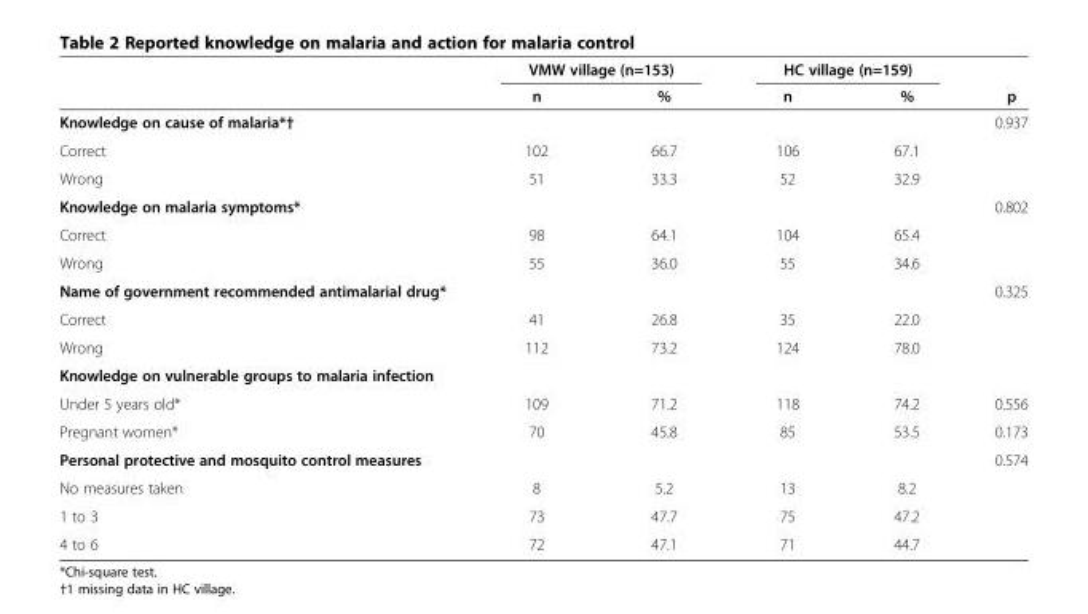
<table><thead><tr><td rowspan="2"></td><td colspan="2">VMW village (n=153)</td><td colspan="2">HC village (n=159)</td><td rowspan="2">p</td></tr><tr><td>n</td><td>%</td><td>n</td><td>%</td></tr></thead><tbody><tr><td>Knowledge on cause of malaria*†</td><td></td><td></td><td></td><td></td><td>0.937</td></tr><tr><td>Correct</td><td>102</td><td>66.7</td><td>106</td><td>67.1</td><td></td></tr><tr><td>Wrong</td><td>51</td><td>33.3</td><td>52</td><td>32.9</td><td></td></tr><tr><td>Knowledge on malaria symptoms*</td><td></td><td></td><td></td><td></td><td>0.802</td></tr><tr><td>Correct</td><td>98</td><td>64.1</td><td>104</td><td>65.4</td><td></td></tr><tr><td>Wrong</td><td>55</td><td>36.0</td><td>55</td><td>34.6</td><td></td></tr><tr><td>Name of government recommended antimalarial drug*</td><td></td><td></td><td></td><td></td><td>0.325</td></tr><tr><td>Correct</td><td>41</td><td>26.8</td><td>35</td><td>22.0</td><td></td></tr><tr><td>Wrong</td><td>112</td><td>73.2</td><td>124</td><td>78.0</td><td></td></tr><tr><td colspan="6">Knowledge on vulnerable groups to malaria infection</td></tr><tr><td>Under 5 years old*</td><td>109</td><td>71.2</td><td>118</td><td>74.2</td><td>0.556</td></tr><tr><td>Pregnant women*</td><td>70</td><td>45.8</td><td>85</td><td>53.5</td><td>0.173</td></tr><tr><td>Personal protective and mosquito control measures</td><td></td><td></td><td></td><td></td><td>0.574</td></tr><tr><td>No measures taken</td><td>8</td><td>5.2</td><td>13</td><td>8.2</td><td></td></tr><tr><td>1 to 3</td><td>73</td><td>47.7</td><td>75</td><td>47.2</td><td></td></tr><tr><td>4 to 6</td><td>72</td><td>47.1</td><td>71</td><td>44.7</td><td></td></tr></tbody></table>